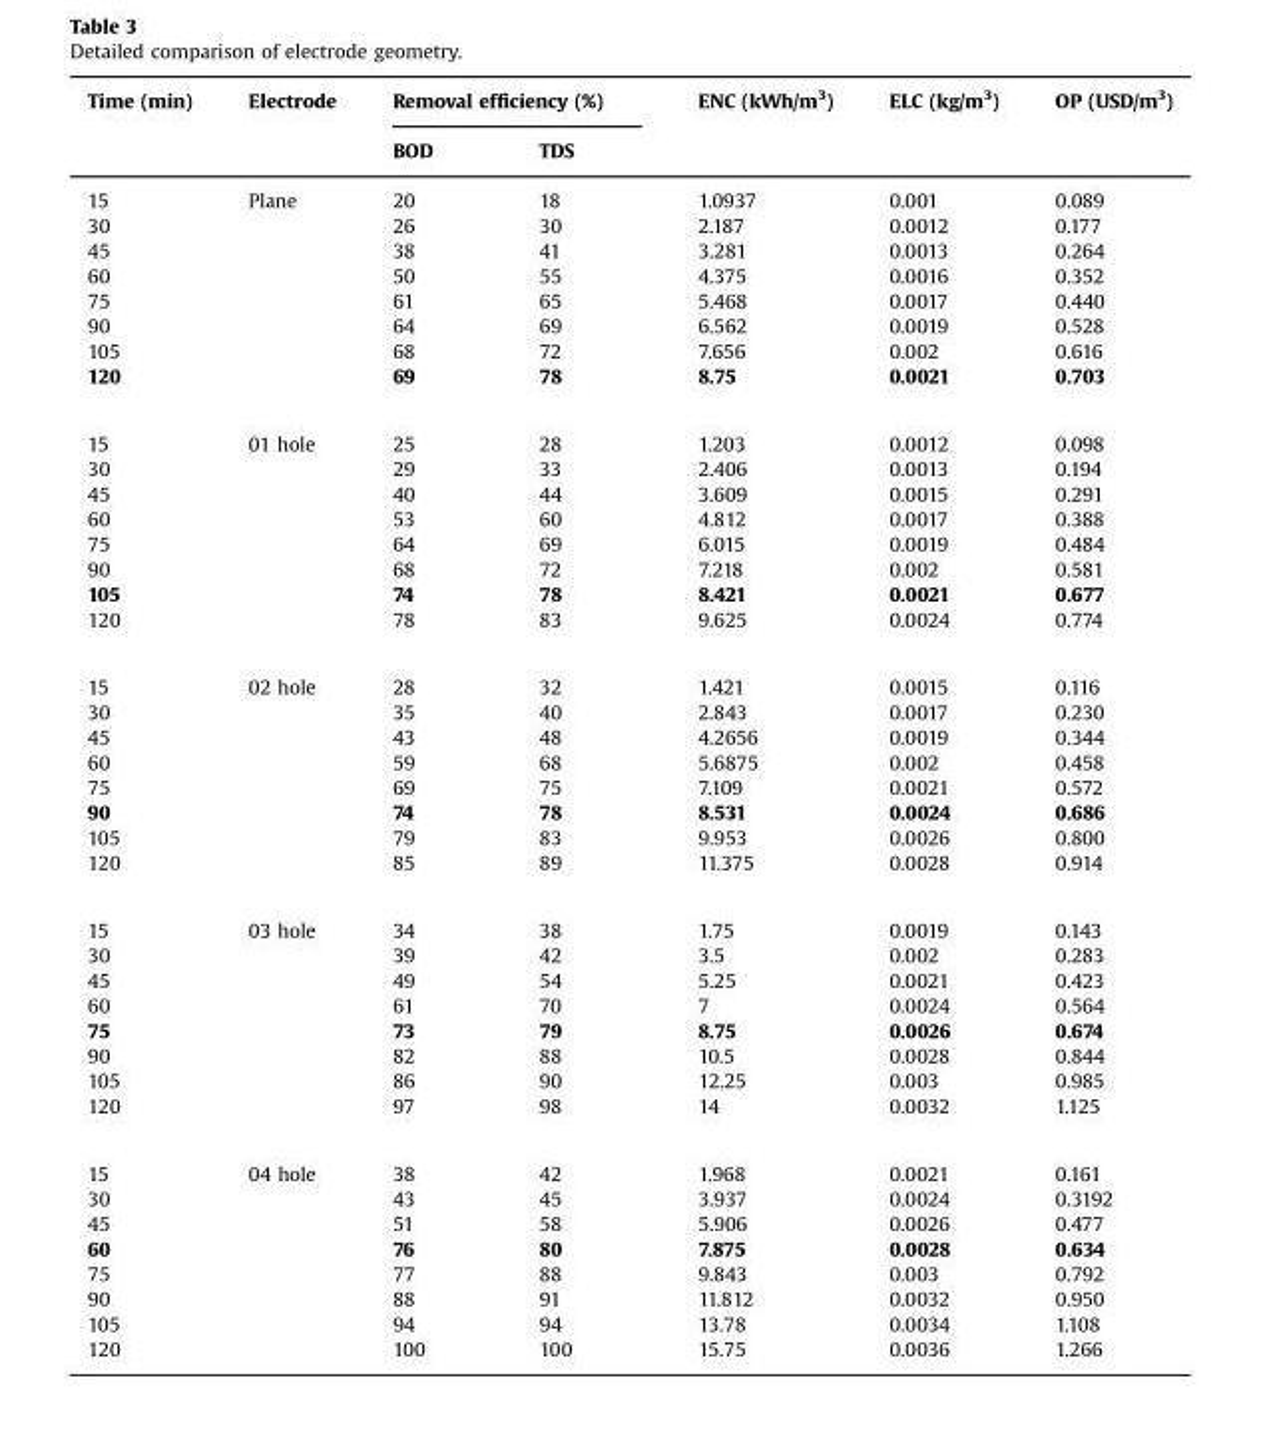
<table><thead><tr><td rowspan="2">Time (min)</td><td rowspan="2">Electrode</td><td colspan="2">Removal efficiency (%)</td><td rowspan="2">ENC (kWh/m<sup>3</sup>)</td><td rowspan="2">ELC (kg/m<sup>3</sup>)</td><td rowspan="2">OP (USD/m<sup>3</sup>)</td></tr><tr><td>BOD</td><td>TDS</td></tr></thead><tbody><tr><td>15</td><td rowspan="8">Plane</td><td>20</td><td>18</td><td>1.0937</td><td>0.001</td><td>0.089</td></tr><tr><td>30</td><td>26</td><td>30</td><td>2.187</td><td>0.0012</td><td>0.177</td></tr><tr><td>45</td><td>38</td><td>41</td><td>3.281</td><td>0.0013</td><td>0.264</td></tr><tr><td>60</td><td>50</td><td>55</td><td>4.375</td><td>0.0016</td><td>0.352</td></tr><tr><td>75</td><td>61</td><td>65</td><td>5.468</td><td>0.0017</td><td>0.440</td></tr><tr><td>90</td><td>64</td><td>69</td><td>6.562</td><td>0.0019</td><td>0.528</td></tr><tr><td>105</td><td>68</td><td>72</td><td>7.656</td><td>0.002</td><td>0.616</td></tr><tr><td>120</td><td>69</td><td>78</td><td>8.75</td><td>0.0021</td><td>0.703</td></tr><tr><td>15</td><td rowspan="8">01 hole</td><td>25</td><td>28</td><td>1.203</td><td>0.0012</td><td>0.098</td></tr><tr><td>30</td><td>29</td><td>33</td><td>2.406</td><td>0.0013</td><td>0.194</td></tr><tr><td>45</td><td>40</td><td>44</td><td>3.609</td><td>0.0015</td><td>0.291</td></tr><tr><td>60</td><td>53</td><td>60</td><td>4.812</td><td>0.0017</td><td>0.388</td></tr><tr><td>75</td><td>64</td><td>69</td><td>6.015</td><td>0.0019</td><td>0.484</td></tr><tr><td>90</td><td>68</td><td>72</td><td>7.218</td><td>0.002</td><td>0.581</td></tr><tr><td>105</td><td>74</td><td>78</td><td>8.421</td><td>0.0021</td><td>0.677</td></tr><tr><td>120</td><td>78</td><td>83</td><td>9.625</td><td>0.0024</td><td>0.774</td></tr><tr><td>15</td><td rowspan="8">02 hole</td><td>28</td><td>32</td><td>1.421</td><td>0.0015</td><td>0.116</td></tr><tr><td>30</td><td>35</td><td>40</td><td>2.843</td><td>0.0017</td><td>0.230</td></tr><tr><td>45</td><td>43</td><td>48</td><td>4.2656</td><td>0.0019</td><td>0.344</td></tr><tr><td>60</td><td>59</td><td>68</td><td>5.6875</td><td>0.002</td><td>0.458</td></tr><tr><td>75</td><td>69</td><td>75</td><td>7.109</td><td>0.0021</td><td>0.572</td></tr><tr><td>90</td><td>74</td><td>78</td><td>8.531</td><td>0.0024</td><td>0.686</td></tr><tr><td>105</td><td>79</td><td>83</td><td>9.953</td><td>0.0026</td><td>0.800</td></tr><tr><td>120</td><td>85</td><td>89</td><td>11.375</td><td>0.0028</td><td>0.914</td></tr><tr><td>15</td><td rowspan="8">03 hole</td><td>34</td><td>38</td><td>1.75</td><td>0.0019</td><td>0.143</td></tr><tr><td>30</td><td>39</td><td>42</td><td>3.5</td><td>0.002</td><td>0.283</td></tr><tr><td>45</td><td>49</td><td>54</td><td>5.25</td><td>0.0021</td><td>0.423</td></tr><tr><td>60</td><td>61</td><td>70</td><td>7</td><td>0.0024</td><td>0.564</td></tr><tr><td>75</td><td>73</td><td>79</td><td>8.75</td><td>0.0026</td><td>0.674</td></tr><tr><td>90</td><td>82</td><td>88</td><td>10.5</td><td>0.0028</td><td>0.844</td></tr><tr><td>105</td><td>86</td><td>90</td><td>12.25</td><td>0.003</td><td>0.985</td></tr><tr><td>120</td><td>97</td><td>98</td><td>14</td><td>0.0032</td><td>1.125</td></tr><tr><td>15</td><td rowspan="8">04 hole</td><td>38</td><td>42</td><td>1.968</td><td>0.0021</td><td>0.161</td></tr><tr><td>30</td><td>43</td><td>45</td><td>3.937</td><td>0.0024</td><td>0.3192</td></tr><tr><td>45</td><td>51</td><td>58</td><td>5.906</td><td>0.0026</td><td>0.477</td></tr><tr><td>60</td><td>76</td><td>80</td><td>7.875</td><td>0.0028</td><td>0.634</td></tr><tr><td>75</td><td>77</td><td>88</td><td>9.843</td><td>0.003</td><td>0.792</td></tr><tr><td>90</td><td>88</td><td>91</td><td>11.812</td><td>0.0032</td><td>0.950</td></tr><tr><td>105</td><td>94</td><td>94</td><td>13.78</td><td>0.0034</td><td>1.108</td></tr><tr><td>120</td><td>100</td><td>100</td><td>15.75</td><td>0.0036</td><td>1.266</td></tr></tbody></table>